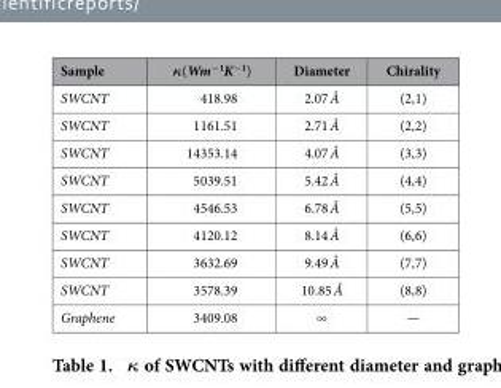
<table><thead><tr><td>Sample</td><td>κ(Wm<sup>−1</sup>K<sup>−1</sup>)</td><td>Diameter</td><td>Chirality</td></tr></thead><tbody><tr><td>SWCNT</td><td>418.98</td><td>2.07 Å</td><td>(2,1)</td></tr><tr><td>SWCNT</td><td>1161.51</td><td>2.71 Å</td><td>(2,2)</td></tr><tr><td>SWCNT</td><td>14353.14</td><td>4.07 Å</td><td>(3,3)</td></tr><tr><td>SWCNT</td><td>5039.51</td><td>5.42 Å</td><td>(4,4)</td></tr><tr><td>SWCNT</td><td>4546.53</td><td>6.78 Å</td><td>(5,5)</td></tr><tr><td>SWCNT</td><td>4120.12</td><td>8.14 Å</td><td>(6,6)</td></tr><tr><td>SWCNT</td><td>3632.69</td><td>9.49 Å</td><td>(7,7)</td></tr><tr><td>SWCNT</td><td>3578.39</td><td>10.85 Å</td><td>(8,8)</td></tr><tr><td>Graphene</td><td>3409.08</td><td>∞</td><td>—</td></tr></tbody></table>